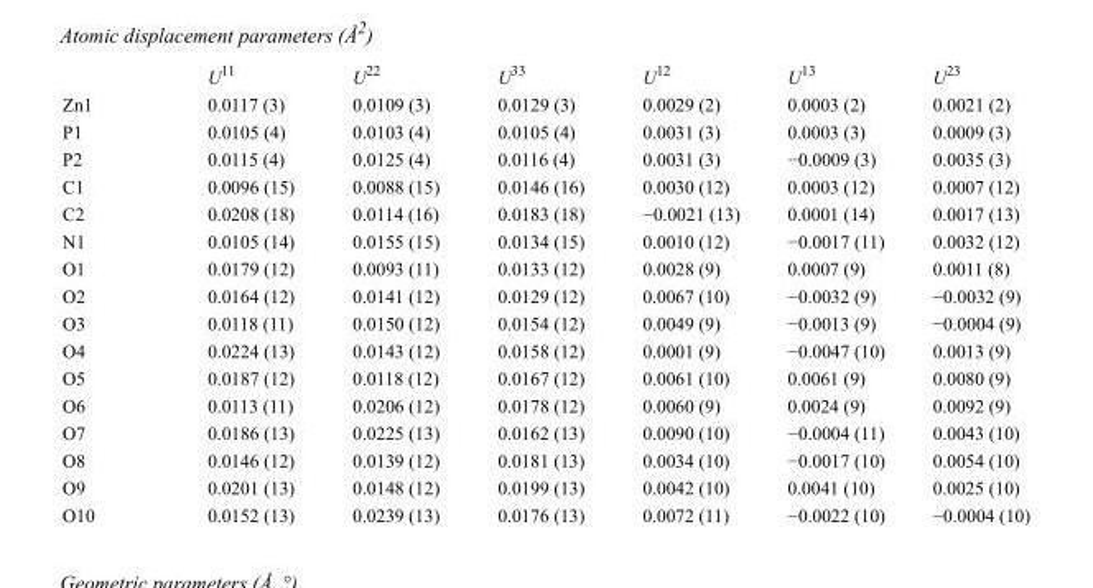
<table><thead><tr><td></td><td>U<sup>11</sup></td><td>U<sup>22</sup></td><td>U<sup>33</sup></td><td>U<sup>12</sup></td><td>U<sup>13</sup></td><td>U<sup>23</sup></td></tr></thead><tbody><tr><td>Zn1</td><td>0.0117 (3)</td><td>0.0109 (3)</td><td>0.0129 (3)</td><td>0.0029 (2)</td><td>0.0003 (2)</td><td>0.0021 (2)</td></tr><tr><td>P1</td><td>0.0105 (4)</td><td>0.0103 (4)</td><td>0.0105 (4)</td><td>0.0031 (3)</td><td>0.0003 (3)</td><td>0.0009 (3)</td></tr><tr><td>P2</td><td>0.0115 (4)</td><td>0.0125 (4)</td><td>0.0116 (4)</td><td>0.0031 (3)</td><td>−0.0009 (3)</td><td>0.0035 (3)</td></tr><tr><td>C1</td><td>0.0096 (15)</td><td>0.0088 (15)</td><td>0.0146 (16)</td><td>0.0030 (12)</td><td>0.0003 (12)</td><td>0.0007 (12)</td></tr><tr><td>C2</td><td>0.0208 (18)</td><td>0.0114 (16)</td><td>0.0183 (18)</td><td>−0.0021 (13)</td><td>0.0001 (14)</td><td>0.0017 (13)</td></tr><tr><td>N1</td><td>0.0105 (14)</td><td>0.0155 (15)</td><td>0.0134 (15)</td><td>0.0010 (12)</td><td>−0.0017 (11)</td><td>0.0032 (12)</td></tr><tr><td>O1</td><td>0.0179 (12)</td><td>0.0093 (11)</td><td>0.0133 (12)</td><td>0.0028 (9)</td><td>0.0007 (9)</td><td>0.0011 (8)</td></tr><tr><td>O2</td><td>0.0164 (12)</td><td>0.0141 (12)</td><td>0.0129 (12)</td><td>0.0067 (10)</td><td>−0.0032 (9)</td><td>−0.0032 (9)</td></tr><tr><td>O3</td><td>0.0118 (11)</td><td>0.0150 (12)</td><td>0.0154 (12)</td><td>0.0049 (9)</td><td>−0.0013 (9)</td><td>−0.0004 (9)</td></tr><tr><td>O4</td><td>0.0224 (13)</td><td>0.0143 (12)</td><td>0.0158 (12)</td><td>0.0001 (9)</td><td>−0.0047 (10)</td><td>0.0013 (9)</td></tr><tr><td>O5</td><td>0.0187 (12)</td><td>0.0118 (12)</td><td>0.0167 (12)</td><td>0.0061 (10)</td><td>0.0061 (9)</td><td>0.0080 (9)</td></tr><tr><td>O6</td><td>0.0113 (11)</td><td>0.0206 (12)</td><td>0.0178 (12)</td><td>0.0060 (9)</td><td>0.0024 (9)</td><td>0.0092 (9)</td></tr><tr><td>O7</td><td>0.0186 (13)</td><td>0.0225 (13)</td><td>0.0162 (13)</td><td>0.0090 (10)</td><td>−0.0004 (11)</td><td>0.0043 (10)</td></tr><tr><td>O8</td><td>0.0146 (12)</td><td>0.0139 (12)</td><td>0.0181 (13)</td><td>0.0034 (10)</td><td>−0.0017 (10)</td><td>0.0054 (10)</td></tr><tr><td>O9</td><td>0.0201 (13)</td><td>0.0148 (12)</td><td>0.0199 (13)</td><td>0.0042 (10)</td><td>0.0041 (10)</td><td>0.0025 (10)</td></tr><tr><td>O10</td><td>0.0152 (13)</td><td>0.0239 (13)</td><td>0.0176 (13)</td><td>0.0072 (11)</td><td>−0.0022 (10)</td><td>−0.0004 (10)</td></tr></tbody></table>